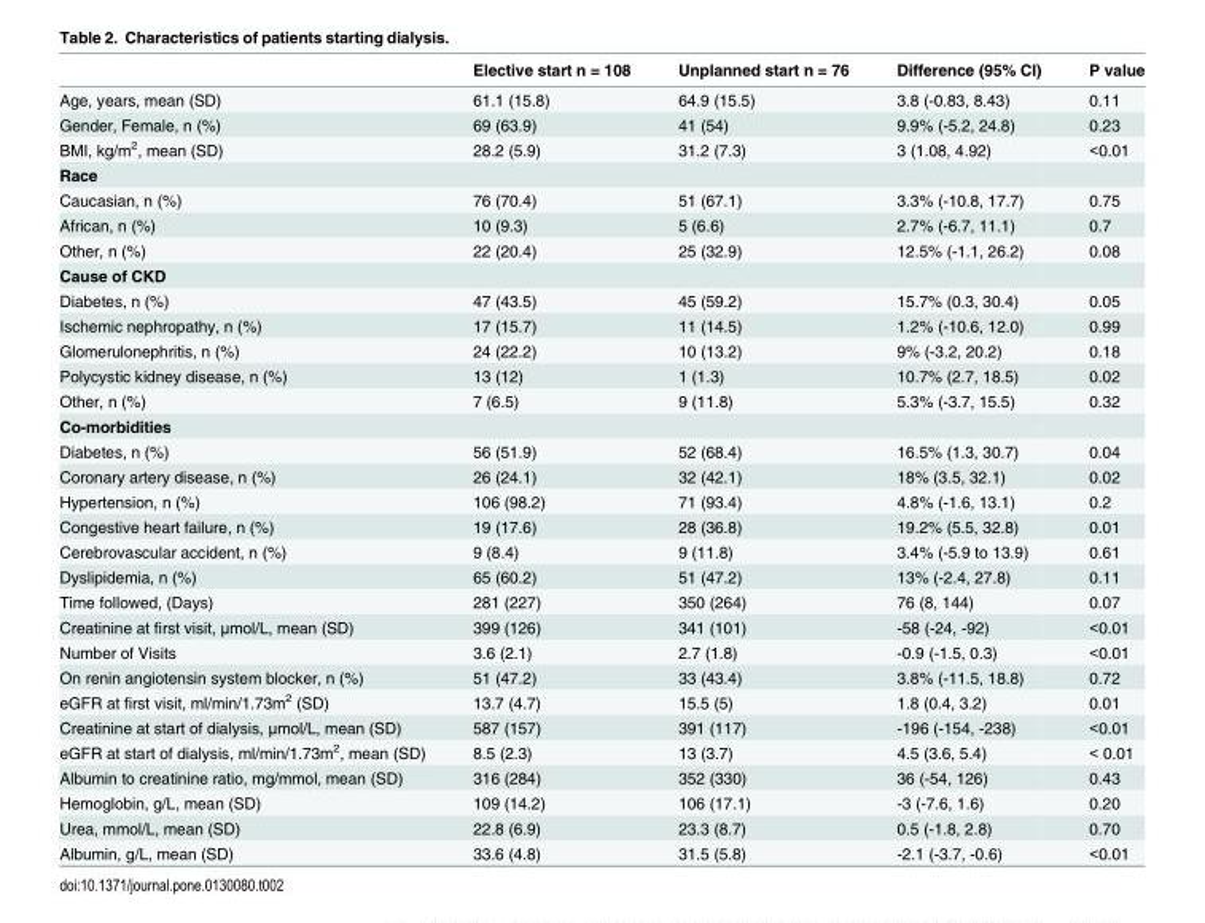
<table><thead><tr><td></td><td>Elective start n = 108</td><td>Unplanned start n = 76</td><td>Difference (95% CI)</td><td>P value</td></tr></thead><tbody><tr><td>Age, years, mean (SD)</td><td>61.1 (15.8)</td><td>64.9 (15.5)</td><td>3.8 (-0.83, 8.43)</td><td>0.11</td></tr><tr><td>Gender, Female, n (%)</td><td>69 (63.9)</td><td>41 (54)</td><td>9.9% (-5.2, 24.8)</td><td>0.23</td></tr><tr><td>BMI, kg/m<sup>2</sup>, mean (SD)</td><td>28.2 (5.9)</td><td>31.2 (7.3)</td><td>3 (1.08, 4.92)</td><td>&lt;0.01</td></tr><tr><td colspan="5">Race</td></tr><tr><td>Caucasian, n (%)</td><td>76 (70.4)</td><td>51 (67.1)</td><td>3.3% (-10.8, 17.7)</td><td>0.75</td></tr><tr><td>African, n (%)</td><td>10 (9.3)</td><td>5 (6.6)</td><td>2.7% (-6.7, 11.1)</td><td>0.7</td></tr><tr><td>Other, n (%)</td><td>22 (20.4)</td><td>25 (32.9)</td><td>12.5% (-1.1, 26.2)</td><td>0.08</td></tr><tr><td colspan="5">Cause of CKD</td></tr><tr><td>Diabetes, n (%)</td><td>47 (43.5)</td><td>45 (59.2)</td><td>15.7% (0.3, 30.4)</td><td>0.05</td></tr><tr><td>Ischemic nephropathy, n (%)</td><td>17 (15.7)</td><td>11 (14.5)</td><td>1.2% (-10.6, 12.0)</td><td>0.99</td></tr><tr><td>Glomerulonephritis, n (%)</td><td>24 (22.2)</td><td>10 (13.2)</td><td>9% (-3.2, 20.2)</td><td>0.18</td></tr><tr><td>Polycystic kidney disease, n (%)</td><td>13 (12)</td><td>1 (1.3)</td><td>10.7% (2.7, 18.5)</td><td>0.02</td></tr><tr><td>Other, n (%)</td><td>7 (6.5)</td><td>9 (11.8)</td><td>5.3% (-3.7, 15.5)</td><td>0.32</td></tr><tr><td colspan="5">Co-morbidities</td></tr><tr><td>Diabetes, n (%)</td><td>56 (51.9)</td><td>52 (68.4)</td><td>16.5% (1.3, 30.7)</td><td>0.04</td></tr><tr><td>Coronary artery disease, n (%)</td><td>26 (24.1)</td><td>32 (42.1)</td><td>18% (3.5, 32.1)</td><td>0.02</td></tr><tr><td>Hypertension, n (%)</td><td>106 (98.2)</td><td>71 (93.4)</td><td>4.8% (-1.6, 13.1)</td><td>0.2</td></tr><tr><td>Congestive heart failure, n (%)</td><td>19 (17.6)</td><td>28 (36.8)</td><td>19.2% (5.5, 32.8)</td><td>0.01</td></tr><tr><td>Cerebrovascular accident, n (%)</td><td>9 (8.4)</td><td>9 (11.8)</td><td>3.4% (-5.9 to 13.9)</td><td>0.61</td></tr><tr><td>Dyslipidemia, n (%)</td><td>65 (60.2)</td><td>51 (47.2)</td><td>13% (-2.4, 27.8)</td><td>0.11</td></tr><tr><td>Time followed, (Days)</td><td>281 (227)</td><td>350 (264)</td><td>76 (8, 144)</td><td>0.07</td></tr><tr><td>Creatinine at first visit, μmol/L, mean (SD)</td><td>399 (126)</td><td>341 (101)</td><td>-58 (-24, -92)</td><td>&lt;0.01</td></tr><tr><td>Number of Visits</td><td>3.6 (2.1)</td><td>2.7 (1.8)</td><td>-0.9 (-1.5, 0.3)</td><td>&lt;0.01</td></tr><tr><td>On renin angiotensin system blocker, n (%)</td><td>51 (47.2)</td><td>33 (43.4)</td><td>3.8% (-11.5, 18.8)</td><td>0.72</td></tr><tr><td>eGFR at first visit, ml/min/1.73m<sup>2</sup> (SD)</td><td>13.7 (4.7)</td><td>15.5 (5)</td><td>1.8 (0.4, 3.2)</td><td>0.01</td></tr><tr><td>Creatinine at start of dialysis, μmol/L, mean (SD)</td><td>587 (157)</td><td>391 (117)</td><td>-196 (-154, -238)</td><td>&lt;0.01</td></tr><tr><td>eGFR at start of dialysis, ml/min/1.73m<sup>2</sup>, mean (SD)</td><td>8.5 (2.3)</td><td>13 (3.7)</td><td>4.5 (3.6, 5.4)</td><td>&lt; 0.01</td></tr><tr><td>Albumin to creatinine ratio, mg/mmol, mean (SD)</td><td>316 (284)</td><td>352 (330)</td><td>36 (-54, 126)</td><td>0.43</td></tr><tr><td>Hemoglobin, g/L, mean (SD)</td><td>109 (14.2)</td><td>106 (17.1)</td><td>-3 (-7.6, 1.6)</td><td>0.20</td></tr><tr><td>Urea, mmol/L, mean (SD)</td><td>22.8 (6.9)</td><td>23.3 (8.7)</td><td>0.5 (-1.8, 2.8)</td><td>0.70</td></tr><tr><td>Albumin, g/L, mean (SD)</td><td>33.6 (4.8)</td><td>31.5 (5.8)</td><td>-2.1 (-3.7, -0.6)</td><td>&lt;0.01</td></tr></tbody></table>